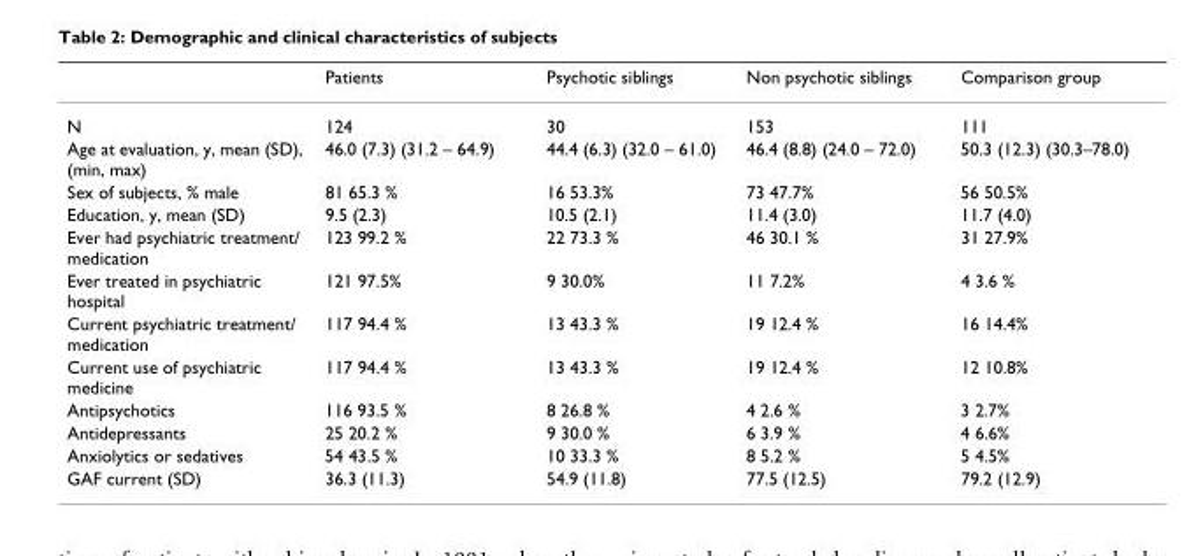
<table><thead><tr><td></td><td>Patients</td><td>Psychotic siblings</td><td>Non psychotic siblings</td><td>Comparison group</td></tr></thead><tbody><tr><td>N</td><td>124</td><td>30</td><td>153</td><td>111</td></tr><tr><td>Age at evaluation, y, mean (SD), (min, max)</td><td>46.0 (7.3) (31.2 – 64.9)</td><td>44.4 (6.3) (32.0 – 61.0)</td><td>46.4 (8.8) (24.0 – 72.0)</td><td>50.3 (12.3) (30.3–78.0)</td></tr><tr><td>Sex of subjects, % male</td><td>81 65.3 %</td><td>16 53.3%</td><td>73 47.7%</td><td>56 50.5%</td></tr><tr><td>Education, y, mean (SD)</td><td>9.5 (2.3)</td><td>10.5 (2.1)</td><td>11.4 (3.0)</td><td>11.7 (4.0)</td></tr><tr><td>Ever had psychiatric treatment/ medication</td><td>123 99.2 %</td><td>22 73.3 %</td><td>46 30.1 %</td><td>31 27.9%</td></tr><tr><td>Ever treated in psychiatric hospital</td><td>121 97.5%</td><td>9 30.0%</td><td>11 7.2%</td><td>4 3.6 %</td></tr><tr><td>Current psychiatric treatment/ medication</td><td>117 94.4 %</td><td>13 43.3 %</td><td>19 12.4 %</td><td>16 14.4%</td></tr><tr><td>Current use of psychiatric medicine</td><td>117 94.4 %</td><td>13 43.3 %</td><td>19 12.4 %</td><td>12 10.8%</td></tr><tr><td>Antipsychotics</td><td>116 93.5 %</td><td>8 26.8 %</td><td>4 2.6 %</td><td>3 2.7%</td></tr><tr><td>Antidepressants</td><td>25 20.2 %</td><td>9 30.0 %</td><td>6 3.9 %</td><td>4 6.6%</td></tr><tr><td>Anxiolytics or sedatives</td><td>54 43.5 %</td><td>10 33.3 %</td><td>8 5.2 %</td><td>5 4.5%</td></tr><tr><td>GAF current (SD)</td><td>36.3 (11.3)</td><td>54.9 (11.8)</td><td>77.5 (12.5)</td><td>79.2 (12.9)</td></tr></tbody></table>